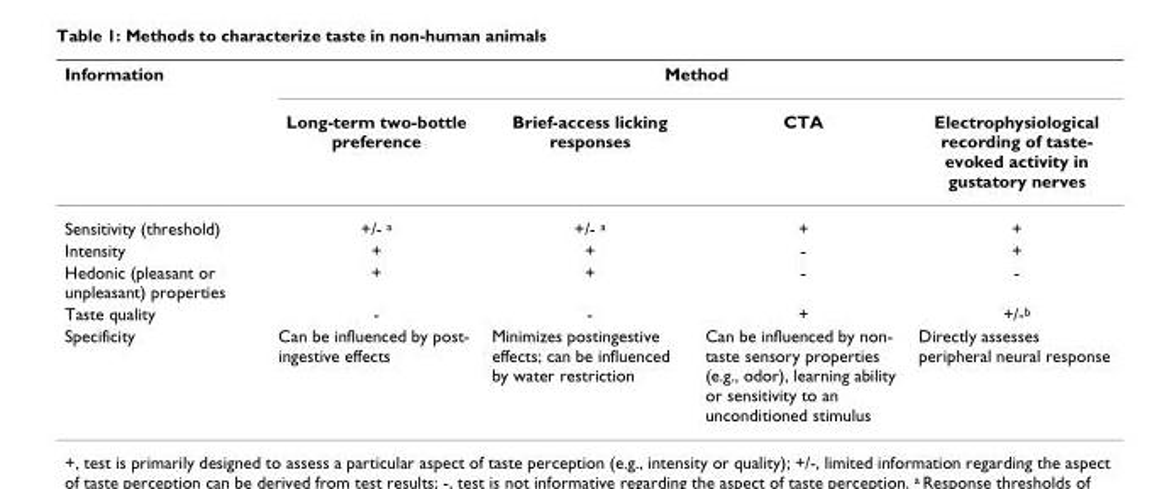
<table><thead><tr><td rowspan="2">Information</td><td colspan="4">Method</td></tr><tr><td>Long-term two-bottle preference</td><td>Brief-access licking responses</td><td>CTA</td><td>Electrophysiological recording of taste- evoked activity in gustatory nerves</td></tr></thead><tbody><tr><td>Sensitivity (threshold)</td><td>+/- <sup>a</sup></td><td>+/- <sup>a</sup></td><td>+</td><td>+</td></tr><tr><td>Intensity</td><td>+</td><td>+</td><td>-</td><td>+</td></tr><tr><td>Hedonic (pleasant or unpleasant) properties</td><td>+</td><td>+</td><td>-</td><td>-</td></tr><tr><td>Taste quality</td><td>-</td><td>-</td><td>+</td><td>+/-<sup>b</sup></td></tr><tr><td>Specificity</td><td>Can be influenced by post- ingestive effects</td><td>Minimizes postingestive effects; can be influenced by water restriction</td><td>Can be influenced by non- taste sensory properties (e.g., odor), learning ability or sensitivity to an unconditioned stimulus</td><td>Directly assesses peripheral neural response</td></tr></tbody></table>